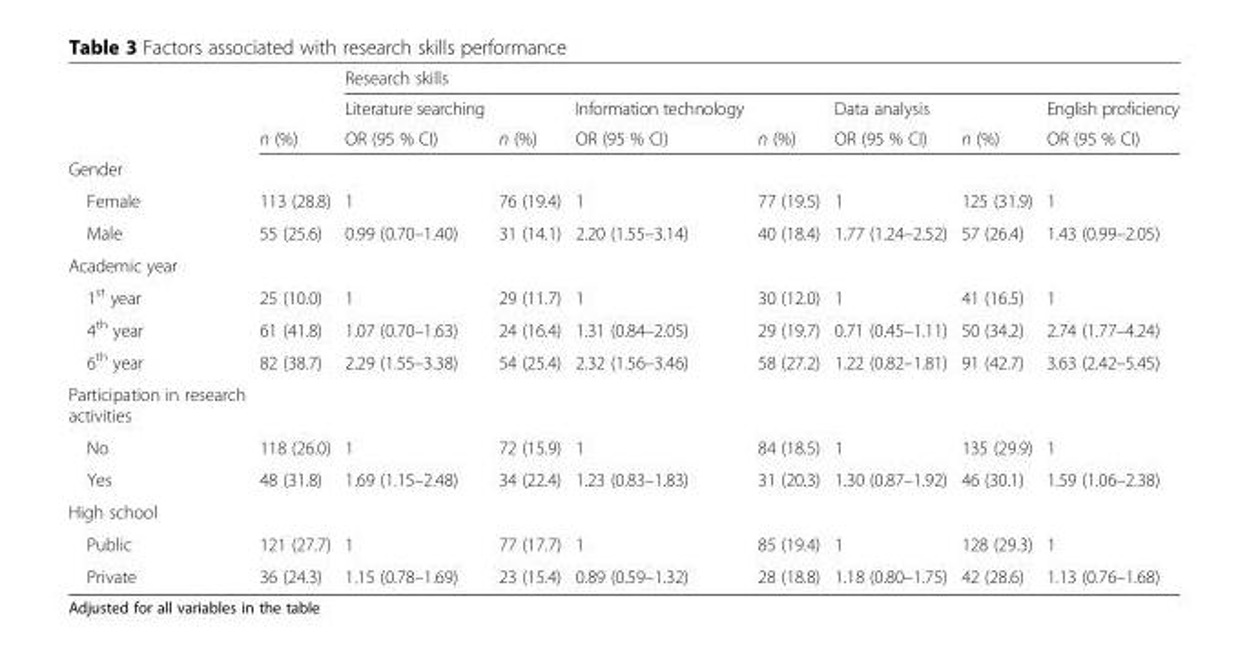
<table><thead><tr><td rowspan="3"></td><td rowspan="3">n (%)</td><td colspan="7">Research skills</td></tr><tr><td rowspan="2">Literature searching OR (95 % CI)</td><td rowspan="2">n (%)</td><td rowspan="2">Information technology OR (95 % CI)</td><td rowspan="2">n (%)</td><td rowspan="2">Data analysis OR (95 % CI)</td><td rowspan="2">n (%)</td><td rowspan="2">English proficiency OR (95 % CI)</td></tr><tr></tr></thead><tbody><tr><td colspan="9">Gender</td></tr><tr><td>Female</td><td>113 (28.8)</td><td>1</td><td>76 (19.4)</td><td>1</td><td>77 (19.5)</td><td>1</td><td>125 (31.9)</td><td>1</td></tr><tr><td>Male</td><td>55 (25.6)</td><td>0.99 (0.70–1.40)</td><td>31 (14.1)</td><td>2.20 (1.55–3.14)</td><td>40 (18.4)</td><td>1.77 (1.24–2.52)</td><td>57 (26.4)</td><td>1.43 (0.99–2.05)</td></tr><tr><td colspan="9">Academic year</td></tr><tr><td>1<sup>st</sup> year</td><td>25 (10.0)</td><td>1</td><td>29 (11.7)</td><td>1</td><td>30 (12.0)</td><td>1</td><td>41 (16.5)</td><td>1</td></tr><tr><td>4<sup>th</sup> year</td><td>61 (41.8)</td><td>1.07 (0.70–1.63)</td><td>24 (16.4)</td><td>1.31 (0.84–2.05)</td><td>29 (19.7)</td><td>0.71 (0.45–1.11)</td><td>50 (34.2)</td><td>2.74 (1.77–4.24)</td></tr><tr><td>6<sup>th</sup> year</td><td>82 (38.7)</td><td>2.29 (1.55–3.38)</td><td>54 (25.4)</td><td>2.32 (1.56–3.46)</td><td>58 (27.2)</td><td>1.22 (0.82–1.81)</td><td>91 (42.7)</td><td>3.63 (2.42–5.45)</td></tr><tr><td colspan="9">Participation in research activities</td></tr><tr><td>No</td><td>118 (26.0)</td><td>1</td><td>72 (15.9)</td><td>1</td><td>84 (18.5)</td><td>1</td><td>135 (29.9)</td><td>1</td></tr><tr><td>Yes</td><td>48 (31.8)</td><td>1.69 (1.15–2.48)</td><td>34 (22.4)</td><td>1.23 (0.83–1.83)</td><td>31 (20.3)</td><td>1.30 (0.87–1.92)</td><td>46 (30.1)</td><td>1.59 (1.06–2.38)</td></tr><tr><td colspan="9">High school</td></tr><tr><td>Public</td><td>121 (27.7)</td><td>1</td><td>77 (17.7)</td><td>1</td><td>85 (19.4)</td><td>1</td><td>128 (29.3)</td><td>1</td></tr><tr><td>Private</td><td>36 (24.3)</td><td>1.15 (0.78–1.69)</td><td>23 (15.4)</td><td>0.89 (0.59–1.32)</td><td>28 (18.8)</td><td>1.18 (0.80–1.75)</td><td>42 (28.6)</td><td>1.13 (0.76–1.68)</td></tr></tbody></table>